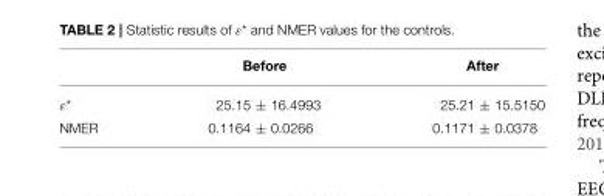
<table><thead><tr><td></td><td>Before</td><td>After</td></tr></thead><tbody><tr><td>ε*</td><td>25.15 ± 16.4993</td><td>25.21 ± 15.5150</td></tr><tr><td>NMER</td><td>0.1164 ± 0.0266</td><td>0.1171 ± 0.0378</td></tr></tbody></table>